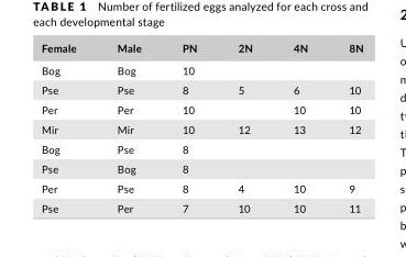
<table><thead><tr><td>Female</td><td>Male</td><td>PN</td><td>2N</td><td>4N</td><td>8N</td></tr></thead><tbody><tr><td>Bog</td><td>Bog</td><td>10</td><td></td><td></td><td></td></tr><tr><td>Pse</td><td>Pse</td><td>8</td><td>5</td><td>6</td><td>10</td></tr><tr><td>Per</td><td>Per</td><td>10</td><td></td><td>10</td><td>10</td></tr><tr><td>Mir</td><td>Mir</td><td>10</td><td>12</td><td>13</td><td>12</td></tr><tr><td>Bog</td><td>Pse</td><td>8</td><td></td><td></td><td></td></tr><tr><td>Pse</td><td>Bog</td><td>8</td><td></td><td></td><td></td></tr><tr><td>Per</td><td>Pse</td><td>8</td><td>4</td><td>10</td><td>9</td></tr><tr><td>Pse</td><td>Per</td><td>7</td><td>10</td><td>10</td><td>11</td></tr></tbody></table>